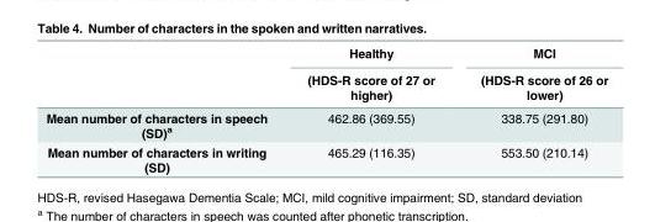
<table><thead><tr><td rowspan="2"></td><td rowspan="2">Healthy (HDS-R score of 27 or higher)</td><td rowspan="2">MCI (HDS-R score of 26 or lower)</td></tr><tr></tr></thead><tbody><tr><td>Mean number of characters in speech (SD)<sup>a</sup></td><td>462.86 (369.55)</td><td>338.75 (291.80)</td></tr><tr><td>Mean number of characters in writing (SD)</td><td>465.29 (116.35)</td><td>553.50 (210.14)</td></tr></tbody></table>